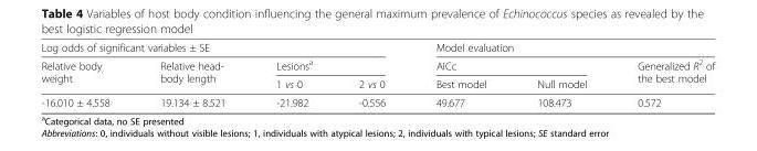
<table><thead><tr><td colspan="4">Log odds of significant variables ± SE</td><td colspan="3">Model evaluation</td></tr><tr><td rowspan="2">Relative body weight</td><td rowspan="2">Relative head- body length</td><td colspan="2">Lesions<sup>a</sup></td><td colspan="2">AICc</td><td rowspan="2">Generalized R<sup>2</sup> of the best model</td></tr><tr><td>1 vs 0</td><td>2 vs 0</td><td>Best model</td><td>Null model</td></tr></thead><tbody><tr><td>-16.010 ± 4.558</td><td>19.134 ± 8.521</td><td>-21.982</td><td>-0.556</td><td>49.677</td><td>108.473</td><td>0.572</td></tr></tbody></table>